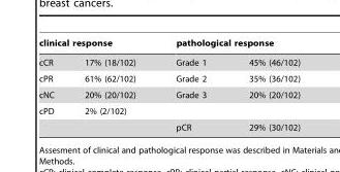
<table><thead><tr><td colspan="2">clinical response</td><td colspan="2">pathological response</td></tr><tr><td>cCR</td><td>17% (18/102)</td><td>Grade 1</td><td>45% (46/102)</td></tr></thead><tbody><tr><td>cPR</td><td>61% (62/102)</td><td>Grade 2</td><td>35% (36/102)</td></tr><tr><td>cNC</td><td>20% (20/102)</td><td>Grade 3</td><td>20% (20/102)</td></tr><tr><td rowspan="2">cPD</td><td>2% (2/102)</td><td></td><td></td></tr><tr><td></td><td>pCR</td><td>29% (30/102)</td></tr></tbody></table>